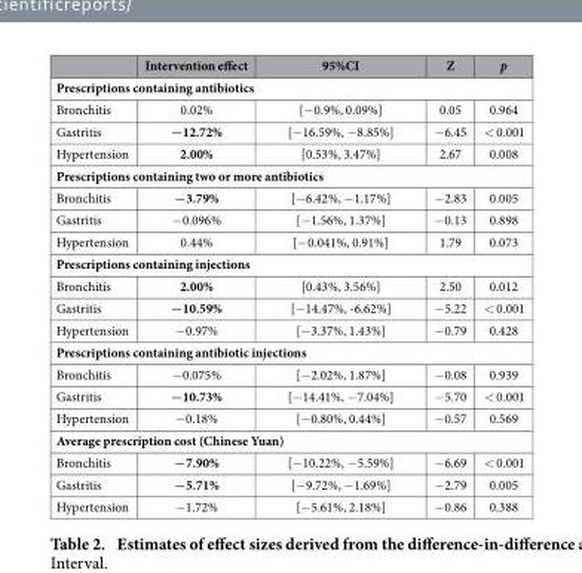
<table><thead><tr><td></td><td>Intervention effect</td><td>95%CI</td><td>Z</td><td>p</td></tr></thead><tbody><tr><td colspan="5">Prescriptions containing antibiotics</td></tr><tr><td>Bronchitis</td><td>0.02%</td><td>[− 0.9%, 0.09%]</td><td>0.05</td><td>0.964</td></tr><tr><td>Gastritis</td><td>−12.72%</td><td>[− 16.59%, − 8.85%]</td><td>− 6.45</td><td>&lt; 0.001</td></tr><tr><td>Hypertension</td><td>2.00%</td><td>[0.53%, 3.47%]</td><td>2.67</td><td>0.008</td></tr><tr><td colspan="5">Prescriptions containing two or more antibiotics</td></tr><tr><td>Bronchitis</td><td>−3.79%</td><td>[− 6.42%, − 1.17%]</td><td>− 2.83</td><td>0.005</td></tr><tr><td>Gastritis</td><td>− 0.096%</td><td>[− 1.56%, 1.37%]</td><td>− 0.13</td><td>0.898</td></tr><tr><td>Hypertension</td><td>0.44%</td><td>[− 0.041%, 0.91%]</td><td>1.79</td><td>0.073</td></tr><tr><td colspan="5">Prescriptions containing injections</td></tr><tr><td>Bronchitis</td><td>2.00%</td><td>[0.43%, 3.56%]</td><td>2.50</td><td>0.012</td></tr><tr><td>Gastritis</td><td>−10.59%</td><td>[− 14.47%, -6.62%]</td><td>− 5.22</td><td>&lt; 0.001</td></tr><tr><td>Hypertension</td><td>− 0.97%</td><td>[− 3.37%, 1.43%]</td><td>− 0.79</td><td>0.428</td></tr><tr><td colspan="5">Prescriptions containing antibiotic injections</td></tr><tr><td>Bronchitis</td><td>− 0.075%</td><td>[− 2.02%, 1.87%]</td><td>− 0.08</td><td>0.939</td></tr><tr><td>Gastritis</td><td>−10.73%</td><td>[− 14.41%, − 7.04%]</td><td>− 5.70</td><td>&lt; 0.001</td></tr><tr><td>Hypertension</td><td>− 0.18%</td><td>[− 0.80%, 0.44%]</td><td>− 0.57</td><td>0.569</td></tr><tr><td colspan="5">Average prescription cost (Chinese Yuan)</td></tr><tr><td>Bronchitis</td><td>−7.90%</td><td>[− 10.22%, − 5.59%]</td><td>− 6.69</td><td>&lt; 0.001</td></tr><tr><td>Gastritis</td><td>−5.71%</td><td>[− 9.72%, − 1.69%]</td><td>− 2.79</td><td>0.005</td></tr><tr><td>Hypertension</td><td>− 1.72%</td><td>[− 5.61%, 2.18%]</td><td>− 0.86</td><td>0.388</td></tr></tbody></table>